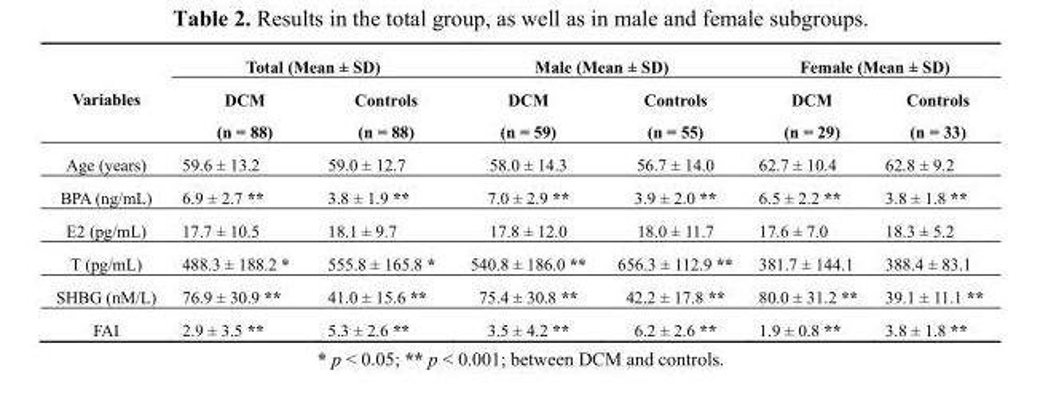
<table><thead><tr><td rowspan="2">Variables</td><td colspan="2">Total (Mean ± SD)</td><td colspan="2">Male (Mean ± SD)</td><td colspan="2">Female (Mean ± SD)</td></tr><tr><td>DCM (n = 88)</td><td>Controls (n = 88)</td><td>DCM (n = 59)</td><td>Controls (n = 55)</td><td>DCM (n = 29)</td><td>Controls (n = 33)</td></tr></thead><tbody><tr><td>Age (years)</td><td>59.6 ± 13.2</td><td>59.0 ± 12.7</td><td>58.0 ± 14.3</td><td>56.7 ± 14.0</td><td>62.7 ± 10.4</td><td>62.8 ± 9.2</td></tr><tr><td>BPA (ng/mL)</td><td>6.9 ± 2.7 **</td><td>3.8 ± 1.9 **</td><td>7.0 ± 2.9 **</td><td>3.9 ± 2.0 **</td><td>6.5 ± 2.2 **</td><td>3.8 ± 1.8 **</td></tr><tr><td>E2 (pg/mL)</td><td>17.7 ± 10.5</td><td>18.1 ± 9.7</td><td>17.8 ± 12.0</td><td>18.0 ± 11.7</td><td>17.6 ± 7.0</td><td>18.3 ± 5.2</td></tr><tr><td>T (pg/mL)</td><td>488.3 ± 188.2 *</td><td>555.8 ± 165.8 *</td><td>540.8 ± 186.0 **</td><td>656.3 ± 112.9 **</td><td>381.7 ± 144.1</td><td>388.4 ± 83.1</td></tr><tr><td>SHBG (nM/L)</td><td>76.9 ± 30.9 **</td><td>41.0 ± 15.6 **</td><td>75.4 ± 30.8 **</td><td>42.2 ± 17.8 **</td><td>80.0 ± 31.2 **</td><td>39.1 ± 11.1 **</td></tr><tr><td>FAI</td><td>2.9 ± 3.5 **</td><td>5.3 ± 2.6 **</td><td>3.5 ± 4.2 **</td><td>6.2 ± 2.6 **</td><td>1.9 ± 0.8 **</td><td>3.8 ± 1.8 **</td></tr></tbody></table>